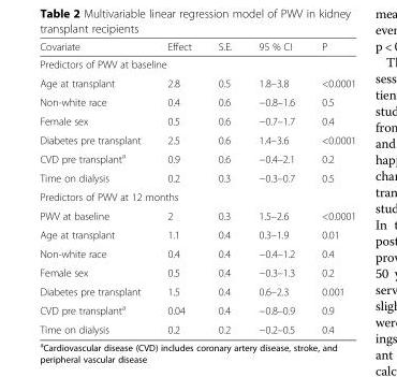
<table><thead><tr><td>Covariate</td><td>Effect</td><td>S.E.</td><td>95 % CI</td><td>P</td></tr></thead><tbody><tr><td colspan="5">Predictors of PWV at baseline</td></tr><tr><td>Age at transplant</td><td>2.8</td><td>0.5</td><td>1.8–3.8</td><td>&lt;0.0001</td></tr><tr><td>Non-white race</td><td>0.4</td><td>0.6</td><td>−0.8–1.6</td><td>0.5</td></tr><tr><td>Female sex</td><td>0.5</td><td>0.6</td><td>−0.7–1.7</td><td>0.4</td></tr><tr><td>Diabetes pre transplant</td><td>2.5</td><td>0.6</td><td>1.4–3.6</td><td>&lt;0.0001</td></tr><tr><td>CVD pre transplant<sup>a</sup></td><td>0.9</td><td>0.6</td><td>−0.4–2.1</td><td>0.2</td></tr><tr><td>Time on dialysis</td><td>0.2</td><td>0.3</td><td>−0.3–0.7</td><td>0.5</td></tr><tr><td colspan="5">Predictors of PWV at 12 months</td></tr><tr><td>PWV at baseline</td><td>2</td><td>0.3</td><td>1.5–2.6</td><td>&lt;0.0001</td></tr><tr><td>Age at transplant</td><td>1.1</td><td>0.4</td><td>0.3–1.9</td><td>0.01</td></tr><tr><td>Non-white race</td><td>0.4</td><td>0.4</td><td>−0.4–1.2</td><td>0.4</td></tr><tr><td>Female sex</td><td>0.5</td><td>0.4</td><td>−0.3–1.3</td><td>0.2</td></tr><tr><td>Diabetes pre transplant</td><td>1.5</td><td>0.4</td><td>0.6–2.3</td><td>0.001</td></tr><tr><td>CVD pre transplant<sup>a</sup></td><td>0.04</td><td>0.4</td><td>−0.8–0.9</td><td>0.9</td></tr><tr><td>Time on dialysis</td><td>0.2</td><td>0.2</td><td>−0.2–0.5</td><td>0.4</td></tr></tbody></table>